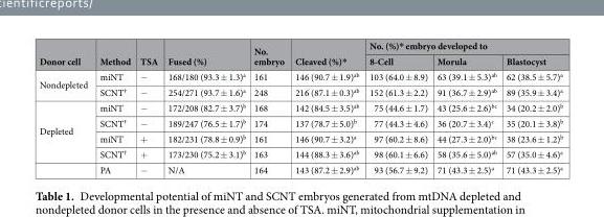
<table><thead><tr><td rowspan="2">Donor cell</td><td rowspan="2">Method</td><td rowspan="2">TSA</td><td rowspan="2">Fused (%)</td><td rowspan="2">No. embryo</td><td rowspan="2">Cleaved (%)*</td><td colspan="3">No. (%)* embryo developed to</td></tr><tr><td>8-Cell</td><td>Morula</td><td>Blastocyst</td></tr></thead><tbody><tr><td rowspan="2">Nondepleted</td><td>miNT</td><td>−</td><td>168/180 (93.3 ± 1.3)<sup>a</sup></td><td>161</td><td>146 (90.7 ± 1.9)<sup>ab</sup></td><td>103 (64.0 ± 8.9)</td><td>63 (39.1 ± 5.3)<sup>ab</sup></td><td>62 (38.5 ± 5.7)<sup>a</sup></td></tr><tr><td>SCNT<sup>†</sup></td><td>−</td><td>254/271 (93.7 ± 1.6)<sup>a</sup></td><td>248</td><td>216 (87.1 ± 0.3)<sup>ab</sup></td><td>152 (61.3 ± 2.2)</td><td>91 (36.7 ± 2.9)<sup>ab</sup></td><td>89 (35.9 ± 3.4)<sup>a</sup></td></tr><tr><td rowspan="5">Depleted</td><td>miNT</td><td>−</td><td>172/208 (82.7 ± 3.7)<sup>b</sup></td><td>168</td><td>142 (84.5 ± 3.5)<sup>ab</sup></td><td>75 (44.6 ± 1.7)</td><td>43 (25.6 ± 2.6)<sup>bc</sup></td><td>34 (20.2 ± 2.0)<sup>b</sup></td></tr><tr><td>SCNT<sup>†</sup></td><td>−</td><td>189/247 (76.5 ± 1.7)<sup>b</sup></td><td>174</td><td>137 (78.7 ± 5.0)<sup>b</sup></td><td>77 (44.3 ± 4.6)</td><td>36 (20.7 ± 3.4)<sup>c</sup></td><td>35 (20.1 ± 3.8)<sup>b</sup></td></tr><tr><td>miNT</td><td>+</td><td>182/231 (78.8 ± 0.9)<sup>b</sup></td><td>161</td><td>146 (90.7 ± 3.2)<sup>a</sup></td><td>97 (60.2 ± 8.6)</td><td>44 (27.3 ± 2.0)<sup>bc</sup></td><td>38 (23.6 ± 1.2)<sup>b</sup></td></tr><tr><td>SCNT<sup>†</sup></td><td>+</td><td>173/230 (75.2 ± 3.1)<sup>b</sup></td><td>163</td><td>144 (88.3 ± 3.6)<sup>ab</sup></td><td>98 (60.1 ± 6.6)</td><td>58 (35.6 ± 5.0)<sup>ab</sup></td><td>57 (35.0 ± 4.6)<sup>a</sup></td></tr><tr><td>PA</td><td>−</td><td>N/A</td><td>164</td><td>143 (87.2 ± 2.9)<sup>ab</sup></td><td>93 (56.7 ± 9.2)</td><td>71 (43.3 ± 2.5)<sup>a</sup></td><td>71 (43.3 ± 2.5)<sup>a</sup></td></tr></tbody></table>